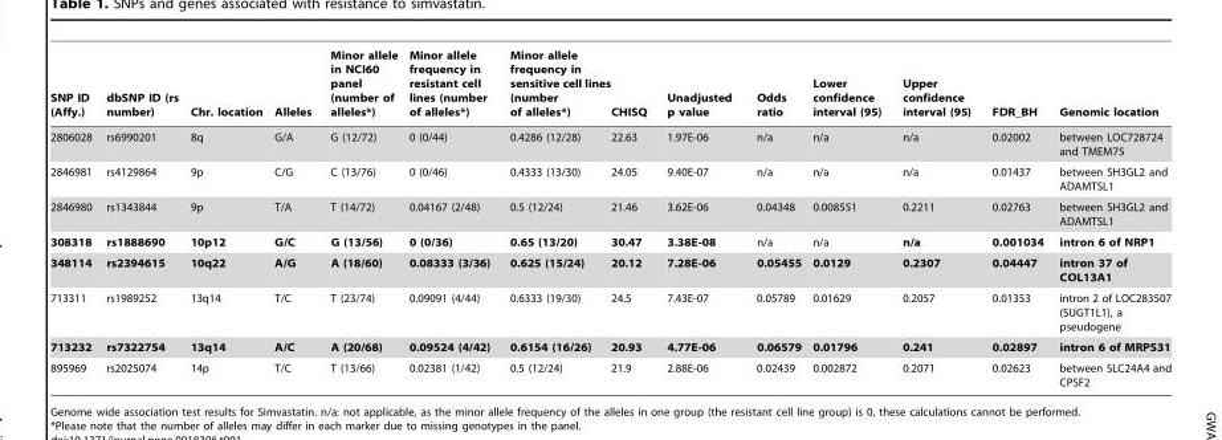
<table><thead><tr><td>SNP ID (Affy.)</td><td>dbSNP ID (rs number)</td><td>Chr. location</td><td>Alleles</td><td>Minor allele in NCI60 panel (number of alleles*)</td><td>Minor allele frequency in resistant cell lines (number of alleles*)</td><td>Minor allele frequency in sensitive cell lines (number of alleles*)</td><td>CHISQ</td><td>Unadjusted p value</td><td>Odds ratio</td><td>Lower confidence interval (95)</td><td>Upper confidence interval (95)</td><td>FDR_BH</td><td>Genomic location</td></tr></thead><tbody><tr><td>2806028</td><td>rs6990201</td><td>8q</td><td>G/A</td><td>G (12/72)</td><td>0 (0/44)</td><td>0.4286 (12/28)</td><td>22.63</td><td>1.97E-06</td><td>n/a</td><td>n/a</td><td>n/a</td><td>0.02002</td><td>between LOC728724 and TMEM75</td></tr><tr><td>2846981</td><td>rs4129864</td><td>9p</td><td>C/G</td><td>C (13/76)</td><td>0 (0/46)</td><td>0.4333 (13/30)</td><td>24.05</td><td>9.40E-07</td><td>n/a</td><td>n/a</td><td>n/a</td><td>0.01437</td><td>between SH3GL2 and ADAMTSL1</td></tr><tr><td>2846980</td><td>rs1343844</td><td>9p</td><td>T/A</td><td>T (14/72)</td><td>0.04167 (2/48)</td><td>0.5 (12/24)</td><td>21.46</td><td>3.62E-06</td><td>0.04348</td><td>0.008551</td><td>0.2211</td><td>0.02763</td><td>between SH3GL2 and ADAMTSL1</td></tr><tr><td>308318</td><td>rs1888690</td><td>10p12</td><td>G/C</td><td>G (13/56)</td><td>0 (0/36)</td><td>0.65 (13/20)</td><td>30.47</td><td>3.38E-08</td><td>n/a</td><td>n/a</td><td>n/a</td><td>0.001034</td><td>intron 6 of NRP1</td></tr><tr><td>348114</td><td>rs2394615</td><td>10q22</td><td>A/G</td><td>A (18/60)</td><td>0.08333 (3/36)</td><td>0.625 (15/24)</td><td>20.12</td><td>7.28E-06</td><td>0.05455</td><td>0.0129</td><td>0.2307</td><td>0.04447</td><td>intron 37 of COL13A1</td></tr><tr><td>713311</td><td>rs1989252</td><td>13q14</td><td>T/C</td><td>T (23/74)</td><td>0.09091 (4/44)</td><td>0.6333 (19/30)</td><td>24.5</td><td>7.43E-07</td><td>0.05789</td><td>0.01629</td><td>0.2057</td><td>0.01353</td><td>intron 2 of LOC283507 (SUGT1L1), a pseudogene</td></tr><tr><td>713232</td><td>rs7322754</td><td>13q14</td><td>A/C</td><td>A (20/68)</td><td>0.09524 (4/42)</td><td>0.6154 (16/26)</td><td>20.93</td><td>4.77E-06</td><td>0.06579</td><td>0.01796</td><td>0.241</td><td>0.02897</td><td>intron 6 of MRPS31</td></tr><tr><td>895969</td><td>rs2025074</td><td>14p</td><td>T/C</td><td>T (13/66)</td><td>0.02381 (1/42)</td><td>0.5 (12/24)</td><td>21.9</td><td>2.88E-06</td><td>0.02439</td><td>0.002872</td><td>0.2071</td><td>0.02623</td><td>between SLC24A4 and CPSF2</td></tr></tbody></table>